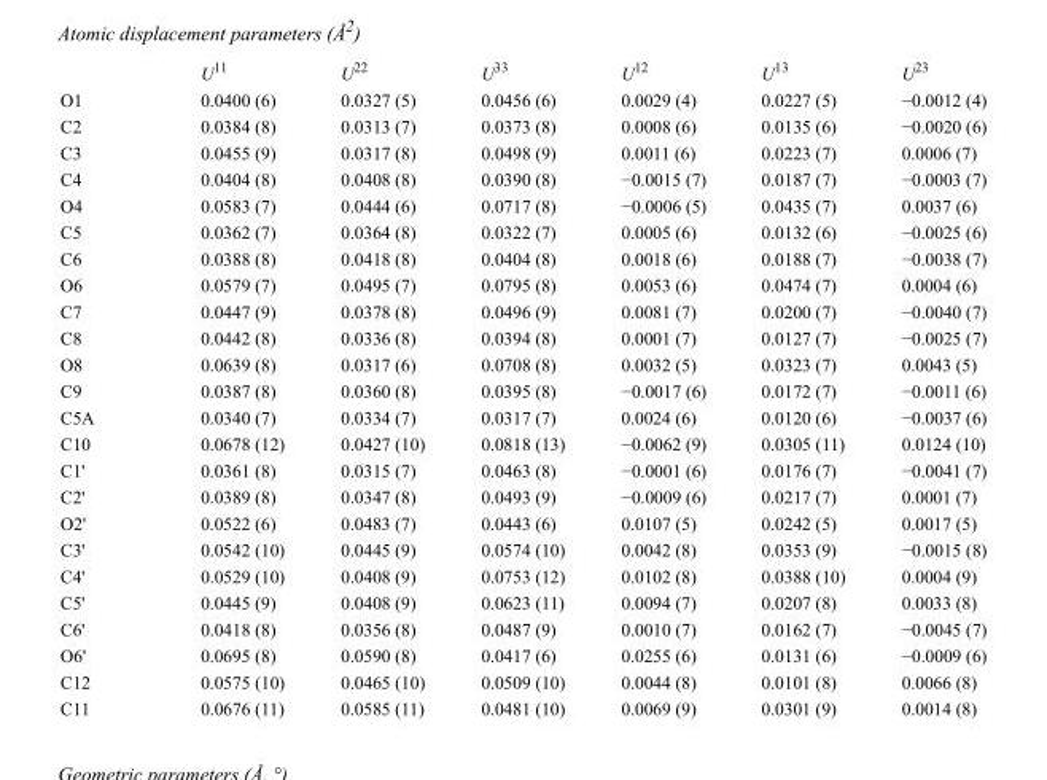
<table><thead><tr><td></td><td>U<sup>11</sup></td><td>U<sup>22</sup></td><td>U<sup>33</sup></td><td>U<sup>12</sup></td><td>U<sup>13</sup></td><td>U<sup>23</sup></td></tr></thead><tbody><tr><td>O1</td><td>0.0400 (6)</td><td>0.0327 (5)</td><td>0.0456 (6)</td><td>0.0029 (4)</td><td>0.0227 (5)</td><td>−0.0012 (4)</td></tr><tr><td>C2</td><td>0.0384 (8)</td><td>0.0313 (7)</td><td>0.0373 (8)</td><td>0.0008 (6)</td><td>0.0135 (6)</td><td>−0.0020 (6)</td></tr><tr><td>C3</td><td>0.0455 (9)</td><td>0.0317 (8)</td><td>0.0498 (9)</td><td>0.0011 (6)</td><td>0.0223 (7)</td><td>0.0006 (7)</td></tr><tr><td>C4</td><td>0.0404 (8)</td><td>0.0408 (8)</td><td>0.0390 (8)</td><td>−0.0015 (7)</td><td>0.0187 (7)</td><td>−0.0003 (7)</td></tr><tr><td>O4</td><td>0.0583 (7)</td><td>0.0444 (6)</td><td>0.0717 (8)</td><td>−0.0006 (5)</td><td>0.0435 (7)</td><td>0.0037 (6)</td></tr><tr><td>C5</td><td>0.0362 (7)</td><td>0.0364 (8)</td><td>0.0322 (7)</td><td>0.0005 (6)</td><td>0.0132 (6)</td><td>−0.0025 (6)</td></tr><tr><td>C6</td><td>0.0388 (8)</td><td>0.0418 (8)</td><td>0.0404 (8)</td><td>0.0018 (6)</td><td>0.0188 (7)</td><td>−0.0038 (7)</td></tr><tr><td>O6</td><td>0.0579 (7)</td><td>0.0495 (7)</td><td>0.0795 (8)</td><td>0.0053 (6)</td><td>0.0474 (7)</td><td>0.0004 (6)</td></tr><tr><td>C7</td><td>0.0447 (9)</td><td>0.0378 (8)</td><td>0.0496 (9)</td><td>0.0081 (7)</td><td>0.0200 (7)</td><td>−0.0040 (7)</td></tr><tr><td>C8</td><td>0.0442 (8)</td><td>0.0336 (8)</td><td>0.0394 (8)</td><td>0.0001 (7)</td><td>0.0127 (7)</td><td>−0.0025 (7)</td></tr><tr><td>O8</td><td>0.0639 (8)</td><td>0.0317 (6)</td><td>0.0708 (8)</td><td>0.0032 (5)</td><td>0.0323 (7)</td><td>0.0043 (5)</td></tr><tr><td>C9</td><td>0.0387 (8)</td><td>0.0360 (8)</td><td>0.0395 (8)</td><td>−0.0017 (6)</td><td>0.0172 (7)</td><td>−0.0011 (6)</td></tr><tr><td>C5A</td><td>0.0340 (7)</td><td>0.0334 (7)</td><td>0.0317 (7)</td><td>0.0024 (6)</td><td>0.0120 (6)</td><td>−0.0037 (6)</td></tr><tr><td>C10</td><td>0.0678 (12)</td><td>0.0427 (10)</td><td>0.0818 (13)</td><td>−0.0062 (9)</td><td>0.0305 (11)</td><td>0.0124 (10)</td></tr><tr><td>C1&#x27;</td><td>0.0361 (8)</td><td>0.0315 (7)</td><td>0.0463 (8)</td><td>−0.0001 (6)</td><td>0.0176 (7)</td><td>−0.0041 (7)</td></tr><tr><td>C2&#x27;</td><td>0.0389 (8)</td><td>0.0347 (8)</td><td>0.0493 (9)</td><td>−0.0009 (6)</td><td>0.0217 (7)</td><td>0.0001 (7)</td></tr><tr><td>O2&#x27;</td><td>0.0522 (6)</td><td>0.0483 (7)</td><td>0.0443 (6)</td><td>0.0107 (5)</td><td>0.0242 (5)</td><td>0.0017 (5)</td></tr><tr><td>C3&#x27;</td><td>0.0542 (10)</td><td>0.0445 (9)</td><td>0.0574 (10)</td><td>0.0042 (8)</td><td>0.0353 (9)</td><td>−0.0015 (8)</td></tr><tr><td>C4&#x27;</td><td>0.0529 (10)</td><td>0.0408 (9)</td><td>0.0753 (12)</td><td>0.0102 (8)</td><td>0.0388 (10)</td><td>0.0004 (9)</td></tr><tr><td>C5&#x27;</td><td>0.0445 (9)</td><td>0.0408 (9)</td><td>0.0623 (11)</td><td>0.0094 (7)</td><td>0.0207 (8)</td><td>0.0033 (8)</td></tr><tr><td>C6&#x27;</td><td>0.0418 (8)</td><td>0.0356 (8)</td><td>0.0487 (9)</td><td>0.0010 (7)</td><td>0.0162 (7)</td><td>−0.0045 (7)</td></tr><tr><td>O6&#x27;</td><td>0.0695 (8)</td><td>0.0590 (8)</td><td>0.0417 (6)</td><td>0.0255 (6)</td><td>0.0131 (6)</td><td>−0.0009 (6)</td></tr><tr><td>C12</td><td>0.0575 (10)</td><td>0.0465 (10)</td><td>0.0509 (10)</td><td>0.0044 (8)</td><td>0.0101 (8)</td><td>0.0066 (8)</td></tr><tr><td>C11</td><td>0.0676 (11)</td><td>0.0585 (11)</td><td>0.0481 (10)</td><td>0.0069 (9)</td><td>0.0301 (9)</td><td>0.0014 (8)</td></tr></tbody></table>